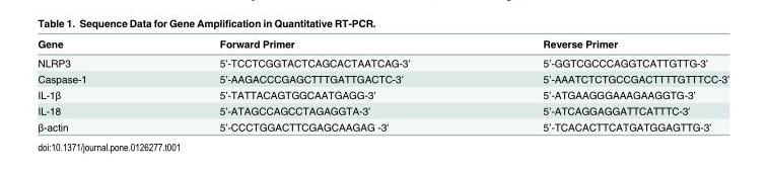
<table><thead><tr><td>Gene</td><td>Forward Primer</td><td>Reverse Primer</td></tr></thead><tbody><tr><td>NLRP3</td><td>5’-TCCTCGGTACTCAGCACTAATCAG-3’</td><td>5’-GGTCGCCCAGGTCATTGTTG-3’</td></tr><tr><td>Caspase-1</td><td>5’-AAGACCCGAGCTTTGATTGACTC-3’</td><td>5’-AAATCTCTGCCGACTTTTGTTTCC-3’</td></tr><tr><td>IL-1β</td><td>5’-TATTACAGTGGCAATGAGG-3’</td><td>5’-ATGAAGGGAAAGAAGGTG-3’</td></tr><tr><td>IL-18</td><td>5’-ATAGCCAGCCTAGAGGTA-3’</td><td>5’-ATCAGGAGGATTCATTTC-3’</td></tr><tr><td>β-actin</td><td>5’-CCCTGGACTTCGAGCAAGAG -3&#x27;</td><td>5’-TCACACTTCATGATGGAGTTG-3’</td></tr></tbody></table>